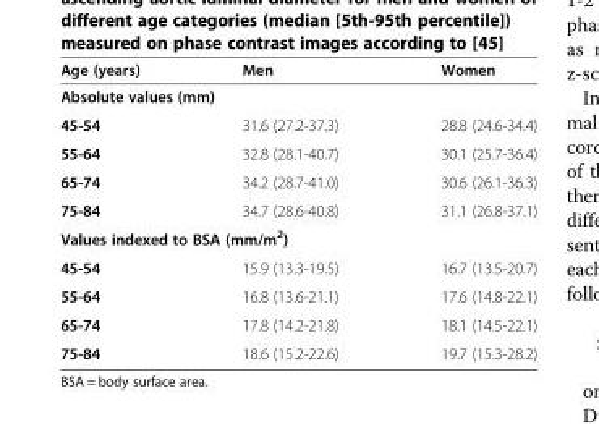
<table><thead><tr><td>Age (years)</td><td>Men</td><td>Women</td></tr></thead><tbody><tr><td colspan="3">Absolute values (mm)</td></tr><tr><td>45-54</td><td>31.6 (27.2-37.3)</td><td>28.8 (24.6-34.4)</td></tr><tr><td>55-64</td><td>32.8 (28.1-40.7)</td><td>30.1 (25.7-36.4)</td></tr><tr><td>65-74</td><td>34.2 (28.7-41.0)</td><td>30.6 (26.1-36.3)</td></tr><tr><td>75-84</td><td>34.7 (28.6-40.8)</td><td>31.1 (26.8-37.1)</td></tr><tr><td colspan="3">Values indexed to BSA (mm/m<sup>2</sup>)</td></tr><tr><td>45-54</td><td>15.9 (13.3-19.5)</td><td>16.7 (13.5-20.7)</td></tr><tr><td>55-64</td><td>16.8 (13.6-21.1)</td><td>17.6 (14.8-22.1)</td></tr><tr><td>65-74</td><td>17.8 (14.2-21.8)</td><td>18.1 (14.5-22.1)</td></tr><tr><td>75-84</td><td>18.6 (15.2-22.6)</td><td>19.7 (15.3-28.2)</td></tr></tbody></table>